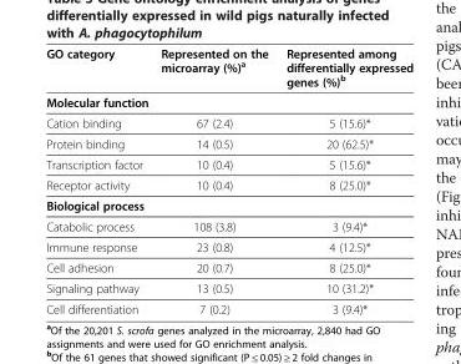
<table><thead><tr><td>GO category</td><td>Represented on the microarray (%)<sup>a</sup></td><td>Represented among differentially expressed genes (%)<sup>b</sup></td></tr></thead><tbody><tr><td colspan="3">Molecular function</td></tr><tr><td>Cation binding</td><td>67 (2.4)</td><td>5 (15.6)*</td></tr><tr><td>Protein binding</td><td>14 (0.5)</td><td>20 (62.5)*</td></tr><tr><td>Transcription factor</td><td>10 (0.4)</td><td>5 (15.6)*</td></tr><tr><td>Receptor activity</td><td>10 (0.4)</td><td>8 (25.0)*</td></tr><tr><td colspan="3">Biological process</td></tr><tr><td>Catabolic process</td><td>108 (3.8)</td><td>3 (9.4)*</td></tr><tr><td>Immune response</td><td>23 (0.8)</td><td>4 (12.5)*</td></tr><tr><td>Cell adhesion</td><td>20 (0.7)</td><td>8 (25.0)*</td></tr><tr><td>Signaling pathway</td><td>13 (0.5)</td><td>10 (31.2)*</td></tr><tr><td>Cell differentiation</td><td>7 (0.2)</td><td>3 (9.4)*</td></tr></tbody></table>